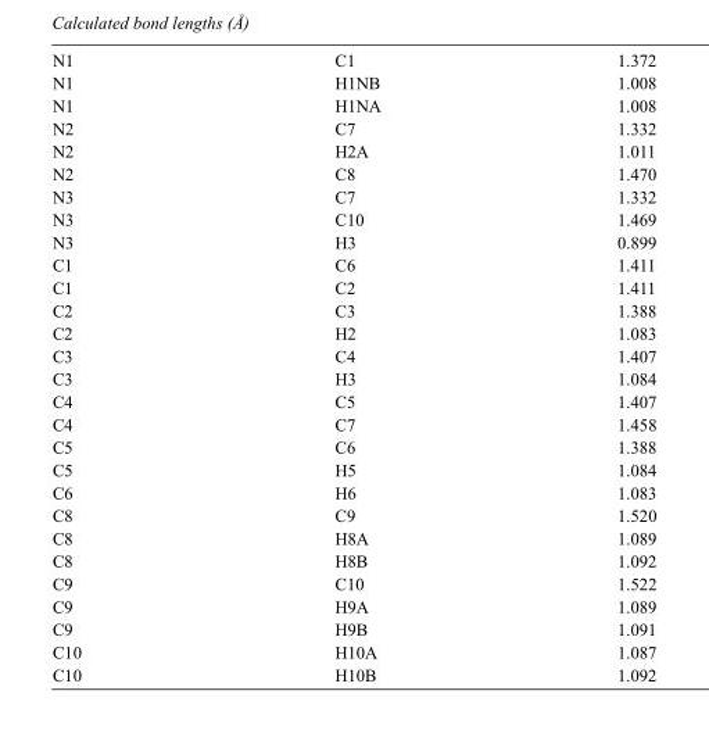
<table><tbody><tr><td>N1</td><td>C1</td><td>1.372</td></tr><tr><td>N1</td><td>H1NB</td><td>1.008</td></tr><tr><td>N1</td><td>H1NA</td><td>1.008</td></tr><tr><td>N2</td><td>C7</td><td>1.332</td></tr><tr><td>N2</td><td>H2A</td><td>1.011</td></tr><tr><td>N2</td><td>C8</td><td>1.470</td></tr><tr><td>N3</td><td>C7</td><td>1.332</td></tr><tr><td>N3</td><td>C10</td><td>1.469</td></tr><tr><td>N3</td><td>H3</td><td>0.899</td></tr><tr><td>C1</td><td>C6</td><td>1.411</td></tr><tr><td>C1</td><td>C2</td><td>1.411</td></tr><tr><td>C2</td><td>C3</td><td>1.388</td></tr><tr><td>C2</td><td>H2</td><td>1.083</td></tr><tr><td>C3</td><td>C4</td><td>1.407</td></tr><tr><td>C3</td><td>H3</td><td>1.084</td></tr><tr><td>C4</td><td>C5</td><td>1.407</td></tr><tr><td>C4</td><td>C7</td><td>1.458</td></tr><tr><td>C5</td><td>C6</td><td>1.388</td></tr><tr><td>C5</td><td>H5</td><td>1.084</td></tr><tr><td>C6</td><td>H6</td><td>1.083</td></tr><tr><td>C8</td><td>C9</td><td>1.520</td></tr><tr><td>C8</td><td>H8A</td><td>1.089</td></tr><tr><td>C8</td><td>H8B</td><td>1.092</td></tr><tr><td>C9</td><td>C10</td><td>1.522</td></tr><tr><td>C9</td><td>H9A</td><td>1.089</td></tr><tr><td>C9</td><td>H9B</td><td>1.091</td></tr><tr><td>C10</td><td>H10A</td><td>1.087</td></tr><tr><td>C10</td><td>H10B</td><td>1.092</td></tr></tbody></table>